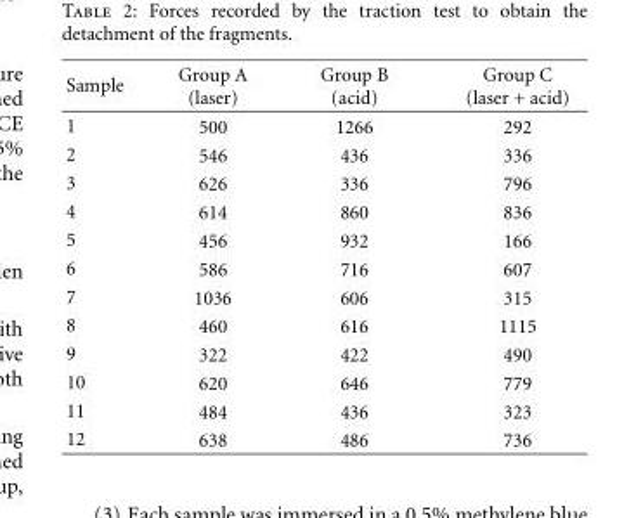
<table><thead><tr><td>Sample</td><td>Group A (laser)</td><td>Group B (acid)</td><td>Group C (laser + acid)</td></tr></thead><tbody><tr><td>1</td><td>500</td><td>1266</td><td>292</td></tr><tr><td>2</td><td>546</td><td>436</td><td>336</td></tr><tr><td>3</td><td>626</td><td>336</td><td>796</td></tr><tr><td>4</td><td>614</td><td>860</td><td>836</td></tr><tr><td>5</td><td>456</td><td>932</td><td>166</td></tr><tr><td>6</td><td>586</td><td>716</td><td>607</td></tr><tr><td>7</td><td>1036</td><td>606</td><td>315</td></tr><tr><td>8</td><td>460</td><td>616</td><td>1115</td></tr><tr><td>9</td><td>322</td><td>422</td><td>490</td></tr><tr><td>10</td><td>620</td><td>646</td><td>779</td></tr><tr><td>11</td><td>484</td><td>436</td><td>323</td></tr><tr><td>12</td><td>638</td><td>486</td><td>736</td></tr></tbody></table>